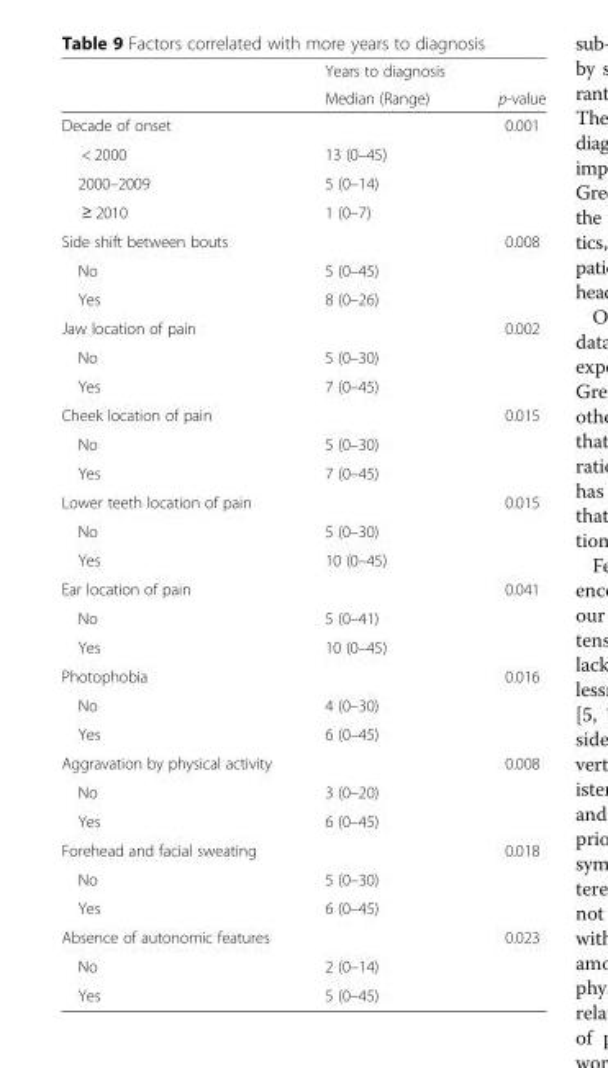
<table><thead><tr><td rowspan="2"></td><td rowspan="2">Years to diagnosis Median (Range)</td><td rowspan="2">p-value</td></tr><tr></tr></thead><tbody><tr><td>Decade of onset</td><td></td><td>0.001</td></tr><tr><td>&lt; 2000</td><td>13 (0–45)</td><td></td></tr><tr><td>2000–2009</td><td>5 (0–14)</td><td></td></tr><tr><td>≥ 2010</td><td>1 (0–7)</td><td></td></tr><tr><td>Side shift between bouts</td><td></td><td>0.008</td></tr><tr><td>No</td><td>5 (0–45)</td><td></td></tr><tr><td>Yes</td><td>8 (0–26)</td><td></td></tr><tr><td>Jaw location of pain</td><td></td><td>0.002</td></tr><tr><td>No</td><td>5 (0–30)</td><td></td></tr><tr><td>Yes</td><td>7 (0–45)</td><td></td></tr><tr><td>Cheek location of pain</td><td></td><td>0.015</td></tr><tr><td>No</td><td>5 (0–30)</td><td></td></tr><tr><td>Yes</td><td>7 (0–45)</td><td></td></tr><tr><td>Lower teeth location of pain</td><td></td><td>0.015</td></tr><tr><td>No</td><td>5 (0–30)</td><td></td></tr><tr><td>Yes</td><td>10 (0–45)</td><td></td></tr><tr><td>Ear location of pain</td><td></td><td>0.041</td></tr><tr><td>No</td><td>5 (0–41)</td><td></td></tr><tr><td>Yes</td><td>10 (0–45)</td><td></td></tr><tr><td>Photophobia</td><td></td><td>0.016</td></tr><tr><td>No</td><td>4 (0–30)</td><td></td></tr><tr><td>Yes</td><td>6 (0–45)</td><td></td></tr><tr><td>Aggravation by physical activity</td><td></td><td>0.008</td></tr><tr><td>No</td><td>3 (0–20)</td><td></td></tr><tr><td>Yes</td><td>6 (0–45)</td><td></td></tr><tr><td>Forehead and facial sweating</td><td></td><td>0.018</td></tr><tr><td>No</td><td>5 (0–30)</td><td></td></tr><tr><td>Yes</td><td>6 (0–45)</td><td></td></tr><tr><td>Absence of autonomic features</td><td></td><td>0.023</td></tr><tr><td>No</td><td>2 (0–14)</td><td></td></tr><tr><td>Yes</td><td>5 (0–45)</td><td></td></tr></tbody></table>